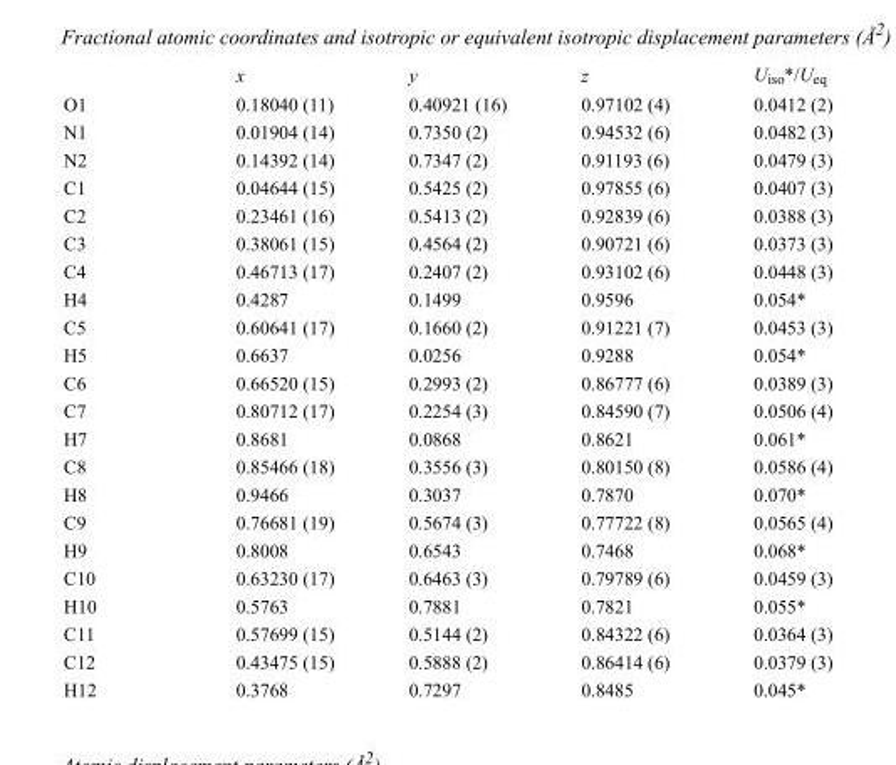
<table><thead><tr><td></td><td>x</td><td>y</td><td>z</td><td>U<sub>iso</sub>*/U<sub>eq</sub></td></tr></thead><tbody><tr><td>O1</td><td>0.18040 (11)</td><td>0.40921 (16)</td><td>0.97102 (4)</td><td>0.0412 (2)</td></tr><tr><td>N1</td><td>0.01904 (14)</td><td>0.7350 (2)</td><td>0.94532 (6)</td><td>0.0482 (3)</td></tr><tr><td>N2</td><td>0.14392 (14)</td><td>0.7347 (2)</td><td>0.91193 (6)</td><td>0.0479 (3)</td></tr><tr><td>C1</td><td>0.04644 (15)</td><td>0.5425 (2)</td><td>0.97855 (6)</td><td>0.0407 (3)</td></tr><tr><td>C2</td><td>0.23461 (16)</td><td>0.5413 (2)</td><td>0.92839 (6)</td><td>0.0388 (3)</td></tr><tr><td>C3</td><td>0.38061 (15)</td><td>0.4564 (2)</td><td>0.90721 (6)</td><td>0.0373 (3)</td></tr><tr><td>C4</td><td>0.46713 (17)</td><td>0.2407 (2)</td><td>0.93102 (6)</td><td>0.0448 (3)</td></tr><tr><td>H4</td><td>0.4287</td><td>0.1499</td><td>0.9596</td><td>0.054*</td></tr><tr><td>C5</td><td>0.60641 (17)</td><td>0.1660 (2)</td><td>0.91221 (7)</td><td>0.0453 (3)</td></tr><tr><td>H5</td><td>0.6637</td><td>0.0256</td><td>0.9288</td><td>0.054*</td></tr><tr><td>C6</td><td>0.66520 (15)</td><td>0.2993 (2)</td><td>0.86777 (6)</td><td>0.0389 (3)</td></tr><tr><td>C7</td><td>0.80712 (17)</td><td>0.2254 (3)</td><td>0.84590 (7)</td><td>0.0506 (4)</td></tr><tr><td>H7</td><td>0.8681</td><td>0.0868</td><td>0.8621</td><td>0.061*</td></tr><tr><td>C8</td><td>0.85466 (18)</td><td>0.3556 (3)</td><td>0.80150 (8)</td><td>0.0586 (4)</td></tr><tr><td>H8</td><td>0.9466</td><td>0.3037</td><td>0.7870</td><td>0.070*</td></tr><tr><td>C9</td><td>0.76681 (19)</td><td>0.5674 (3)</td><td>0.77722 (8)</td><td>0.0565 (4)</td></tr><tr><td>H9</td><td>0.8008</td><td>0.6543</td><td>0.7468</td><td>0.068*</td></tr><tr><td>C10</td><td>0.63230 (17)</td><td>0.6463 (3)</td><td>0.79789 (6)</td><td>0.0459 (3)</td></tr><tr><td>H10</td><td>0.5763</td><td>0.7881</td><td>0.7821</td><td>0.055*</td></tr><tr><td>C11</td><td>0.57699 (15)</td><td>0.5144 (2)</td><td>0.84322 (6)</td><td>0.0364 (3)</td></tr><tr><td>C12</td><td>0.43475 (15)</td><td>0.5888 (2)</td><td>0.86414 (6)</td><td>0.0379 (3)</td></tr><tr><td>H12</td><td>0.3768</td><td>0.7297</td><td>0.8485</td><td>0.045*</td></tr></tbody></table>